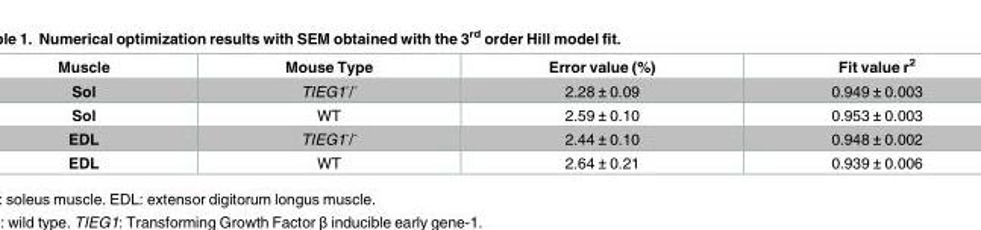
<table><thead><tr><td>Muscle</td><td>Mouse Type</td><td>Error value (%)</td><td>Fit value r<sup>2</sup></td></tr></thead><tbody><tr><td>Sol</td><td>TIEG1<sup>-</sup>/<sup>-</sup></td><td>2.28 ± 0.09</td><td>0.949 ± 0.003</td></tr><tr><td>Sol</td><td>WT</td><td>2.59 ± 0.10</td><td>0.953 ± 0.003</td></tr><tr><td>EDL</td><td>TIEG1<sup>-</sup>/<sup>-</sup></td><td>2.44 ± 0.10</td><td>0.948 ± 0.002</td></tr><tr><td>EDL</td><td>WT</td><td>2.64 ± 0.21</td><td>0.939 ± 0.006</td></tr></tbody></table>